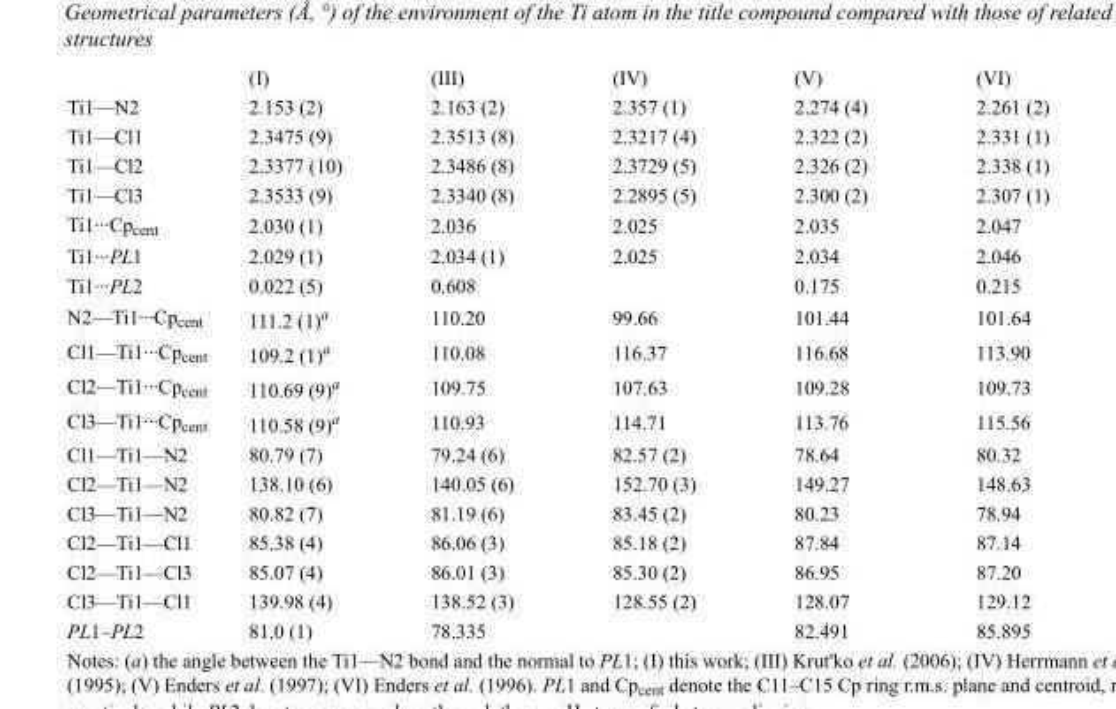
<table><thead><tr><td></td><td>(I)</td><td>(III)</td><td>(IV)</td><td>(V)</td><td>(VI)</td></tr></thead><tbody><tr><td>Ti1—N2</td><td>2.153 (2)</td><td>2.163 (2)</td><td>2.357 (1)</td><td>2.274 (4)</td><td>2.261 (2)</td></tr><tr><td>Ti1—Cl1</td><td>2.3475 (9)</td><td>2.3513 (8)</td><td>2.3217 (4)</td><td>2.322 (2)</td><td>2.331 (1)</td></tr><tr><td>Ti1—Cl2</td><td>2.3377 (10)</td><td>2.3486 (8)</td><td>2.3729 (5)</td><td>2.326 (2)</td><td>2.338 (1)</td></tr><tr><td>Ti1—Cl3</td><td>2.3533 (9)</td><td>2.3340 (8)</td><td>2.2895 (5)</td><td>2.300 (2)</td><td>2.307 (1)</td></tr><tr><td>Ti1···Cp<sub>cent</sub></td><td>2.030 (1)</td><td>2.036</td><td>2.025</td><td>2.035</td><td>2.047</td></tr><tr><td>Ti1···PL1</td><td>2.029 (1)</td><td>2.034 (1)</td><td>2.025</td><td>2.034</td><td>2.046</td></tr><tr><td>Ti1···PL2</td><td>0.022 (5)</td><td>0.608</td><td></td><td>0.175</td><td>0.215</td></tr><tr><td>N2—Ti1···Cp<sub>cent</sub></td><td>111.2 (1)<sup>a</sup></td><td>110.20</td><td>99.66</td><td>101.44</td><td>101.64</td></tr><tr><td>Cl1—Ti1···Cp<sub>cent</sub></td><td>109.2 (1)<sup>a</sup></td><td>110.08</td><td>116.37</td><td>116.68</td><td>113.90</td></tr><tr><td>Cl2—Ti1···Cp<sub>cent</sub></td><td>110.69 (9)<sup>a</sup></td><td>109.75</td><td>107.63</td><td>109.28</td><td>109.73</td></tr><tr><td>Cl3—Ti1···Cp<sub>cent</sub></td><td>110.58 (9)<sup>a</sup></td><td>110.93</td><td>114.71</td><td>113.76</td><td>115.56</td></tr><tr><td>Cl1—Ti1—N2</td><td>80.79 (7)</td><td>79.24 (6)</td><td>82.57 (2)</td><td>78.64</td><td>80.32</td></tr><tr><td>Cl2—Ti1—N2</td><td>138.10 (6)</td><td>140.05 (6)</td><td>152.70 (3)</td><td>149.27</td><td>148.63</td></tr><tr><td>Cl3—Ti1—N2</td><td>80.82 (7)</td><td>81.19 (6)</td><td>83.45 (2)</td><td>80.23</td><td>78.94</td></tr><tr><td>Cl2—Ti1—Cl1</td><td>85.38 (4)</td><td>86.06 (3)</td><td>85.18 (2)</td><td>87.84</td><td>87.14</td></tr><tr><td>Cl2—Ti1—Cl3</td><td>85.07 (4)</td><td>86.01 (3)</td><td>85.30 (2)</td><td>86.95</td><td>87.20</td></tr><tr><td>Cl3—Ti1—Cl1</td><td>139.98 (4)</td><td>138.52 (3)</td><td>128.55 (2)</td><td>128.07</td><td>129.12</td></tr><tr><td>PL1–PL2</td><td>81.0 (1)</td><td>78.335</td><td></td><td>82.491</td><td>85.895</td></tr></tbody></table>